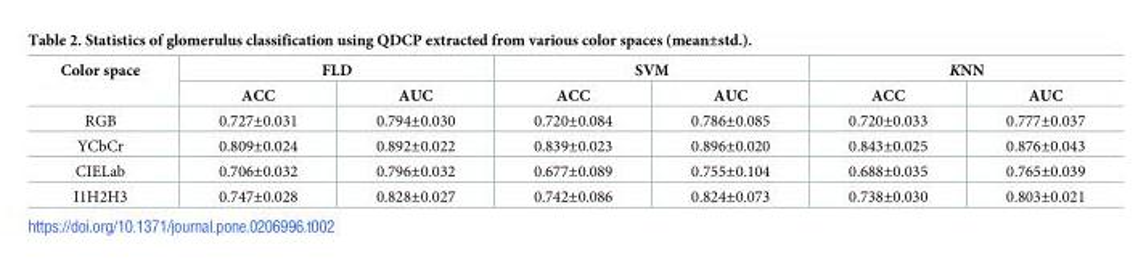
<table><thead><tr><td rowspan="2">Color space</td><td colspan="2">FLD</td><td colspan="2">SVM</td><td colspan="2">KNN</td></tr><tr><td>ACC</td><td>AUC</td><td>ACC</td><td>AUC</td><td>ACC</td><td>AUC</td></tr></thead><tbody><tr><td>RGB</td><td>0.727±0.031</td><td>0.794±0.030</td><td>0.720±0.084</td><td>0.786±0.085</td><td>0.720±0.033</td><td>0.777±0.037</td></tr><tr><td>YCbCr</td><td>0.809±0.024</td><td>0.892±0.022</td><td>0.839±0.023</td><td>0.896±0.020</td><td>0.843±0.025</td><td>0.876±0.043</td></tr><tr><td>CIELab</td><td>0.706±0.032</td><td>0.796±0.032</td><td>0.677±0.089</td><td>0.755±0.104</td><td>0.688±0.035</td><td>0.765±0.039</td></tr><tr><td>I1H2H3</td><td>0.747±0.028</td><td>0.828±0.027</td><td>0.742±0.086</td><td>0.824±0.073</td><td>0.738±0.030</td><td>0.803±0.021</td></tr></tbody></table>